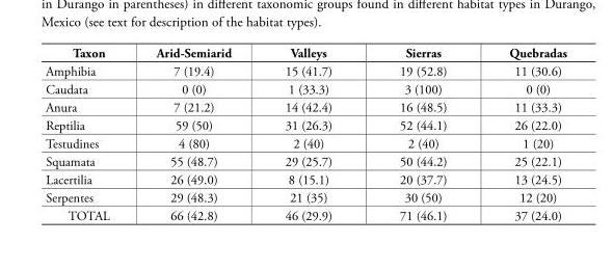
<table><thead><tr><td>Taxon</td><td>Arid-Semiarid</td><td>Valleys</td><td>Sierras</td><td>Quebradas</td></tr></thead><tbody><tr><td>Amphibia</td><td>7 (19.4)</td><td>15 (41.7)</td><td>19 (52.8)</td><td>11 (30.6)</td></tr><tr><td>Caudata</td><td>0 (0)</td><td>1 (33.3)</td><td>3 (100)</td><td>0 (0)</td></tr><tr><td>Anura</td><td>7 (21.2)</td><td>14 (42.4)</td><td>16 (48.5)</td><td>11 (33.3)</td></tr><tr><td>Reptilia</td><td>59 (50)</td><td>31 (26.3)</td><td>52 (44.1)</td><td>26 (22.0)</td></tr><tr><td>Testudines</td><td>4 (80)</td><td>2 (40)</td><td>2 (40)</td><td>1 (20)</td></tr><tr><td>Squamata</td><td>55 (48.7)</td><td>29 (25.7)</td><td>50 (44.2)</td><td>25 (22.1)</td></tr><tr><td>Lacertilia</td><td>26 (49.0)</td><td>8 (15.1)</td><td>20 (37.7)</td><td>13 (24.5)</td></tr><tr><td>Serpentes</td><td>29 (48.3)</td><td>21 (35)</td><td>30 (50)</td><td>12 (20)</td></tr><tr><td>TOTAL</td><td>66 (42.8)</td><td>46 (29.9)</td><td>71 (46.1)</td><td>37 (24.0)</td></tr></tbody></table>